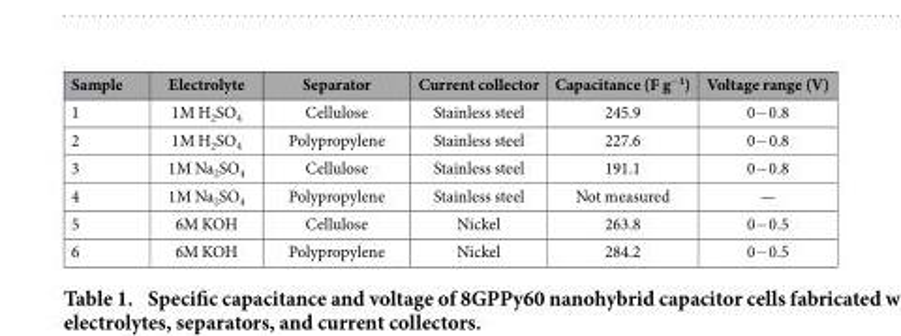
<table><thead><tr><td>Sample</td><td>Electrolyte</td><td>Separator</td><td>Current collector</td><td>Capacitance (F g<sup>−1</sup>)</td><td>Voltage range (V)</td></tr></thead><tbody><tr><td>1</td><td>1M H<sub>2</sub>SO<sub>4</sub></td><td>Cellulose</td><td>Stainless steel</td><td>245.9</td><td>0− 0.8</td></tr><tr><td>2</td><td>1M H<sub>2</sub>SO<sub>4</sub></td><td>Polypropylene</td><td>Stainless steel</td><td>227.6</td><td>0− 0.8</td></tr><tr><td>3</td><td>1M Na<sub>2</sub>SO<sub>4</sub></td><td>Cellulose</td><td>Stainless steel</td><td>191.1</td><td>0− 0.8</td></tr><tr><td>4</td><td>1M Na<sub>2</sub>SO<sub>4</sub></td><td>Polypropylene</td><td>Stainless steel</td><td>Not measured</td><td>—</td></tr><tr><td>5</td><td>6M KOH</td><td>Cellulose</td><td>Nickel</td><td>263.8</td><td>0− 0.5</td></tr><tr><td>6</td><td>6M KOH</td><td>Polypropylene</td><td>Nickel</td><td>284.2</td><td>0− 0.5</td></tr></tbody></table>